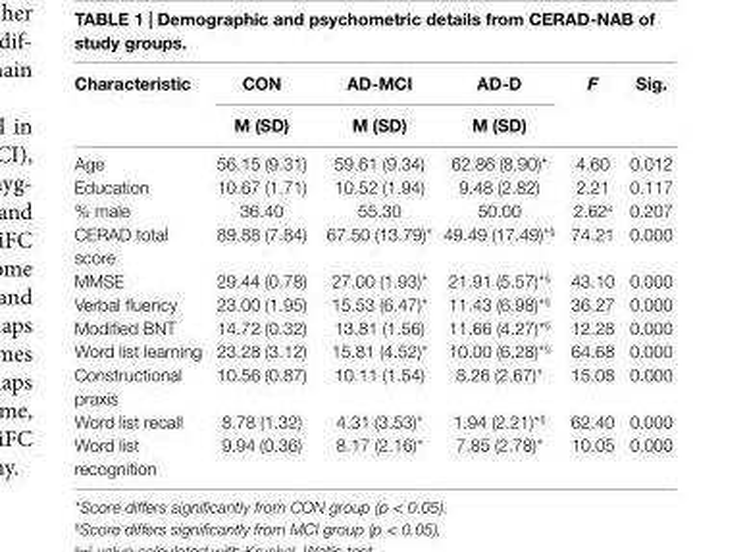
<table><thead><tr><td rowspan="2">characteristic</td><td rowspan="2">cOn M (sD)</td><td rowspan="2">aD-Mci M (sD)</td><td rowspan="2">aD-D M (sD)</td><td rowspan="2">F</td><td rowspan="2">sig.</td></tr><tr></tr></thead><tbody><tr><td>Age</td><td>56.15 (9.31)</td><td>59.61 (9.34)</td><td>62.86 (8.90)*</td><td>4.60</td><td>0.012</td></tr><tr><td>Education</td><td>10.67 (1.71)</td><td>10.52 (1.94)</td><td>9.48 (2.82)</td><td>2.21</td><td>0.117</td></tr><tr><td>% male</td><td>36.40</td><td>55.30</td><td>50.00</td><td>2.62<sup>a</sup></td><td>0.207</td></tr><tr><td>CERAD total score</td><td>89.88 (7.84)</td><td>67.50 (13.79)*</td><td>49.49 (17.49)*<sup>§</sup></td><td>74.21</td><td>0.000</td></tr><tr><td>MMSE</td><td>29.44 (0.78)</td><td>27.00 (1.93)*</td><td>21.91 (5.57)*<sup>§</sup></td><td>43.10</td><td>0.000</td></tr><tr><td>Verbal fluency</td><td>23.00 (1.95)</td><td>15.53 (6.47)*</td><td>11.43 (6.98)*<sup>§</sup></td><td>36.27</td><td>0.000</td></tr><tr><td>Modified BNT</td><td>14.72 (0.32)</td><td>13.81 (1.56)</td><td>11.66 (4.27)*<sup>§</sup></td><td>12.28</td><td>0.000</td></tr><tr><td>Word list learning</td><td>23.28 (3.12)</td><td>15.81 (4.52)*</td><td>10.00 (6.28)*<sup>§</sup></td><td>64.68</td><td>0.000</td></tr><tr><td>Constructional praxis</td><td>10.56 (0.87)</td><td>10.11 (1.54)</td><td>8.26 (2.67)*</td><td>15.08</td><td>0.000</td></tr><tr><td>Word list recall</td><td>8.78 (1.32)</td><td>4.31 (3.53)*</td><td>1.94 (2.21)*<sup>§</sup></td><td>62.40</td><td>0.000</td></tr><tr><td>Word list recognition</td><td>9.94 (0.36)</td><td>8.17 (2.16)*</td><td>7.85 (2.78)*</td><td>10.05</td><td>0.000</td></tr></tbody></table>